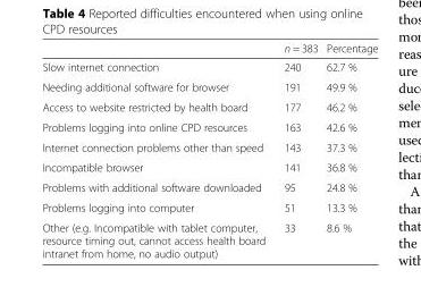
<table><thead><tr><td></td><td>n = 383</td><td>Percentage</td></tr></thead><tbody><tr><td>Slow internet connection</td><td>240</td><td>62.7 %</td></tr><tr><td>Needing additional software for browser</td><td>191</td><td>49.9 %</td></tr><tr><td>Access to website restricted by health board</td><td>177</td><td>46.2 %</td></tr><tr><td>Problems logging into online CPD resources</td><td>163</td><td>42.6 %</td></tr><tr><td>Internet connection problems other than speed</td><td>143</td><td>37.3 %</td></tr><tr><td>Incompatible browser</td><td>141</td><td>36.8 %</td></tr><tr><td>Problems with additional software downloaded</td><td>95</td><td>24.8 %</td></tr><tr><td>Problems logging into computer</td><td>51</td><td>13.3 %</td></tr><tr><td>Other (e.g. Incompatible with tablet computer, resource timing out, cannot access health board intranet from home, no audio output)</td><td>33</td><td>8.6 %</td></tr></tbody></table>